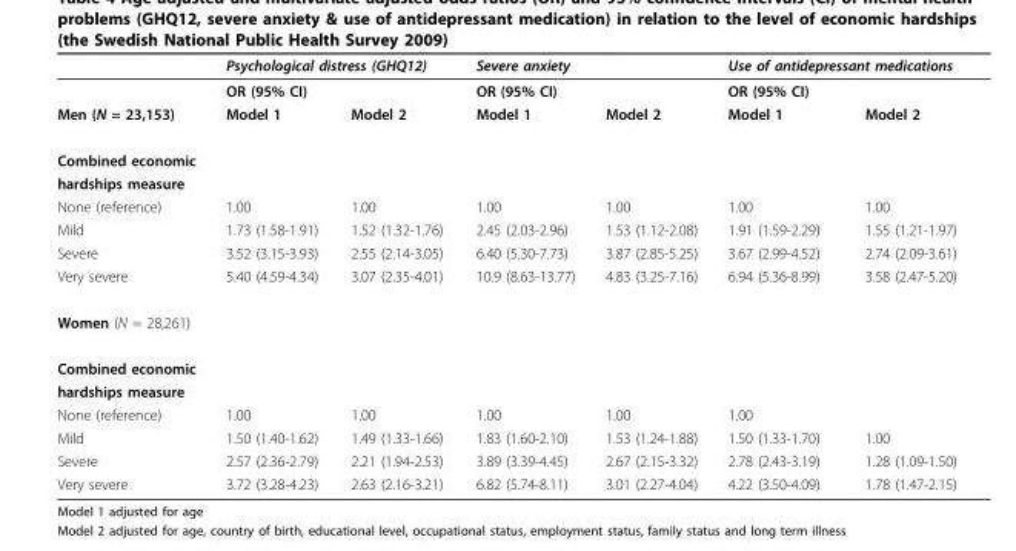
<table><thead><tr><td rowspan="2"></td><td colspan="2">Psychological distress (GHQ12)</td><td rowspan="2">Severe anxiety OR (95% CI)</td><td rowspan="2"></td><td colspan="2">Use of antidepressant medications</td></tr><tr><td>OR (95% CI)</td><td></td><td>OR (95% CI)</td><td></td></tr></thead><tbody><tr><td>Men (N = 23,153)</td><td>Model 1</td><td>Model 2</td><td>Model 1</td><td>Model 2</td><td>Model 1</td><td>Model 2</td></tr><tr><td colspan="7">Combined economic</td></tr><tr><td colspan="7">hardships measure</td></tr><tr><td>None (reference)</td><td>1.00</td><td>1.00</td><td>1.00</td><td>1.00</td><td>1.00</td><td>1.00</td></tr><tr><td>Mild</td><td>1.73 (1.58-1.91)</td><td>1.52 (1.32-1.76)</td><td>2.45 (2.03-2.96)</td><td>1.53 (1.12-2.08)</td><td>1.91 (1.59-2.29)</td><td>1.55 (1.21-1.97)</td></tr><tr><td>Severe</td><td>3.52 (3.15-3.93)</td><td>2.55 (2.14-3.05)</td><td>6.40 (5.30-7.73)</td><td>3.87 (2.85-5.25)</td><td>3.67 (2.99-4.52)</td><td>2.74 (2.09-3.61)</td></tr><tr><td>Very severe</td><td>5.40 (4.59-4.34)</td><td>3.07 (2.35-4.01)</td><td>10.9 (8.63-13.77)</td><td>4.83 (3.25-7.16)</td><td>6.94 (5.36-8.99)</td><td>3.58 (2.47-5.20)</td></tr><tr><td colspan="7">Women (N = 28,261)</td></tr><tr><td colspan="7">Combined economic</td></tr><tr><td colspan="7">hardships measure</td></tr><tr><td>None (reference)</td><td>1.00</td><td>1.00</td><td>1.00</td><td>1.00</td><td>1.00</td><td></td></tr><tr><td>Mild</td><td>1.50 (1.40-1.62)</td><td>1.49 (1.33-1.66)</td><td>1.83 (1.60-2.10)</td><td>1.53 (1.24-1.88)</td><td>1.50 (1.33-1.70)</td><td>1.00</td></tr><tr><td>Severe</td><td>2.57 (2.36-2.79)</td><td>2.21 (1.94-2.53)</td><td>3.89 (3.39-4.45)</td><td>2.67 (2.15-3.32)</td><td>2.78 (2.43-3.19)</td><td>1.28 (1.09-1.50)</td></tr><tr><td>Very severe</td><td>3.72 (3.28-4.23)</td><td>2.63 (2.16-3.21)</td><td>6.82 (5.74-8.11)</td><td>3.01 (2.27-4.04)</td><td>4.22 (3.50-4.09)</td><td>1.78 (1.47-2.15)</td></tr></tbody></table>